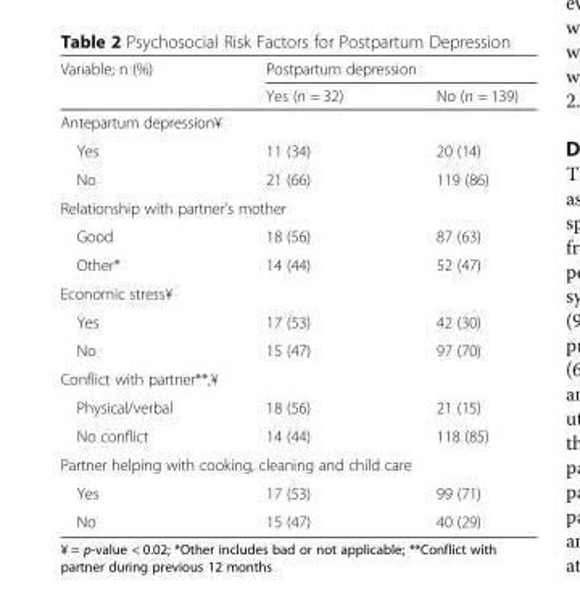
<table><thead><tr><td rowspan="2">Variable; n (%)</td><td colspan="2">Postpartum depression</td></tr><tr><td>Yes (n = 32)</td><td>No (n = 139)</td></tr></thead><tbody><tr><td colspan="3">Antepartum depression¥</td></tr><tr><td>Yes</td><td>11 (34)</td><td>20 (14)</td></tr><tr><td>No</td><td>21 (66)</td><td>119 (86)</td></tr><tr><td colspan="3">Relationship with partner’s mother</td></tr><tr><td>Good</td><td>18 (56)</td><td>87 (63)</td></tr><tr><td>Other*</td><td>14 (44)</td><td>52 (47)</td></tr><tr><td colspan="3">Economic stress¥</td></tr><tr><td>Yes</td><td>17 (53)</td><td>42 (30)</td></tr><tr><td>No</td><td>15 (47)</td><td>97 (70)</td></tr><tr><td colspan="3">Conflict with partner**,¥</td></tr><tr><td>Physical/verbal</td><td>18 (56)</td><td>21 (15)</td></tr><tr><td>No conflict</td><td>14 (44)</td><td>118 (85)</td></tr><tr><td colspan="3">Partner helping with cooking, cleaning and child care</td></tr><tr><td>Yes</td><td>17 (53)</td><td>99 (71)</td></tr><tr><td>No</td><td>15 (47)</td><td>40 (29)</td></tr></tbody></table>